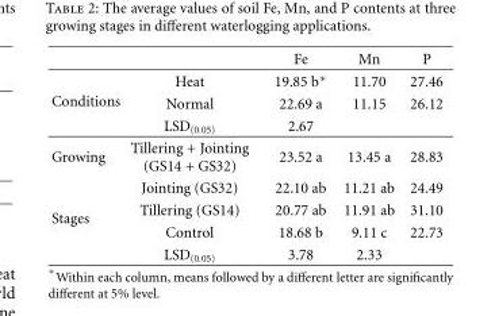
<table><thead><tr><td></td><td></td><td>Fe</td><td>Mn</td><td>P</td></tr></thead><tbody><tr><td rowspan="3">Conditions</td><td>Heat</td><td>19.85 b∗</td><td>11.70</td><td>27.46</td></tr><tr><td>Normal</td><td>22.69 a</td><td>11.15</td><td>26.12</td></tr><tr><td>LSD<sub>(0.05)</sub></td><td>2.67</td><td></td><td></td></tr><tr><td>Growing</td><td>Tillering + Jointing (GS14 + GS32)</td><td>23.52 a</td><td>13.45 a</td><td>28.83</td></tr><tr><td rowspan="4">Stages</td><td>Jointing (GS32)</td><td>22.10 ab</td><td>11.21 ab</td><td>24.49</td></tr><tr><td>Tillering (GS14)</td><td>20.77 ab</td><td>11.91 ab</td><td>31.10</td></tr><tr><td>Control</td><td>18.68 b</td><td>9.11 c</td><td>22.73</td></tr><tr><td>LSD<sub>(0.05)</sub></td><td>3.78</td><td>2.33</td><td></td></tr></tbody></table>